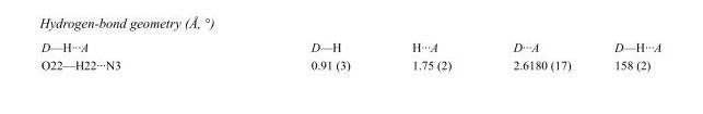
<table><tbody><tr><td>D—H···A</td><td>D—H</td><td>H···A</td><td>D···A</td><td>D—H···A</td></tr><tr><td>O22—H22···N3</td><td>0.91 (3)</td><td>1.75 (2)</td><td>2.6180 (17)</td><td>158 (2)</td></tr></tbody></table>